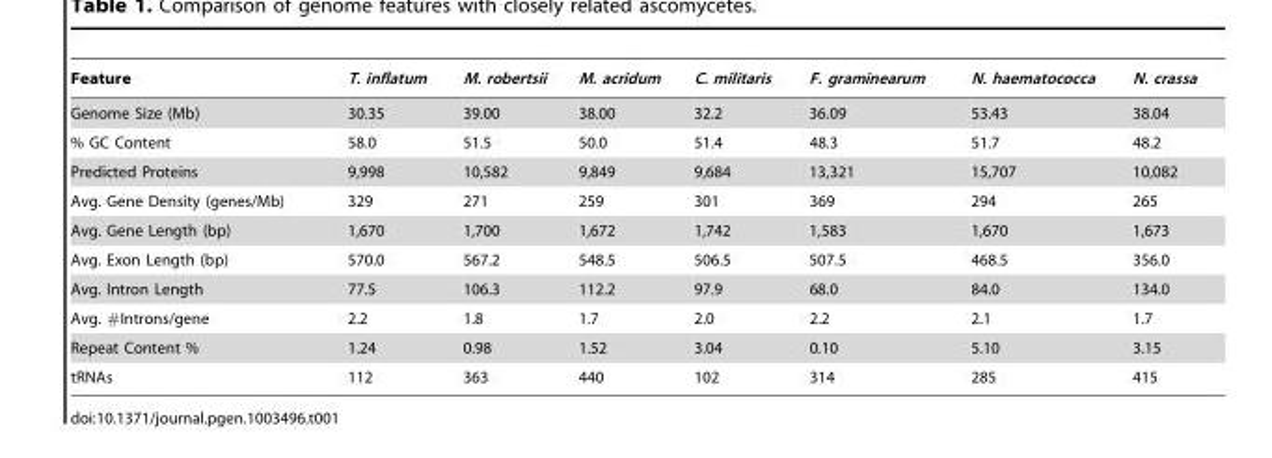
<table><thead><tr><td>Feature</td><td>T. inflatum</td><td>M. robertsii</td><td>M. acridum</td><td>C. militaris</td><td>F. graminearum</td><td>N. haematococca</td><td>N. crassa</td></tr></thead><tbody><tr><td>Genome Size (Mb)</td><td>30.35</td><td>39.00</td><td>38.00</td><td>32.2</td><td>36.09</td><td>53.43</td><td>38.04</td></tr><tr><td>% GC Content</td><td>58.0</td><td>51.5</td><td>50.0</td><td>51.4</td><td>48.3</td><td>51.7</td><td>48.2</td></tr><tr><td>Predicted Proteins</td><td>9,998</td><td>10,582</td><td>9,849</td><td>9,684</td><td>13,321</td><td>15,707</td><td>10,082</td></tr><tr><td>Avg. Gene Density (genes/Mb)</td><td>329</td><td>271</td><td>259</td><td>301</td><td>369</td><td>294</td><td>265</td></tr><tr><td>Avg. Gene Length (bp)</td><td>1,670</td><td>1,700</td><td>1,672</td><td>1,742</td><td>1,583</td><td>1,670</td><td>1,673</td></tr><tr><td>Avg. Exon Length (bp)</td><td>570.0</td><td>567.2</td><td>548.5</td><td>506.5</td><td>507.5</td><td>468.5</td><td>356.0</td></tr><tr><td>Avg. Intron Length</td><td>77.5</td><td>106.3</td><td>112.2</td><td>97.9</td><td>68.0</td><td>84.0</td><td>134.0</td></tr><tr><td>Avg. #Introns/gene</td><td>2.2</td><td>1.8</td><td>1.7</td><td>2.0</td><td>2.2</td><td>2.1</td><td>1.7</td></tr><tr><td>Repeat Content %</td><td>1.24</td><td>0.98</td><td>1.52</td><td>3.04</td><td>0.10</td><td>5.10</td><td>3.15</td></tr><tr><td>tRNAs</td><td>112</td><td>363</td><td>440</td><td>102</td><td>314</td><td>285</td><td>415</td></tr></tbody></table>